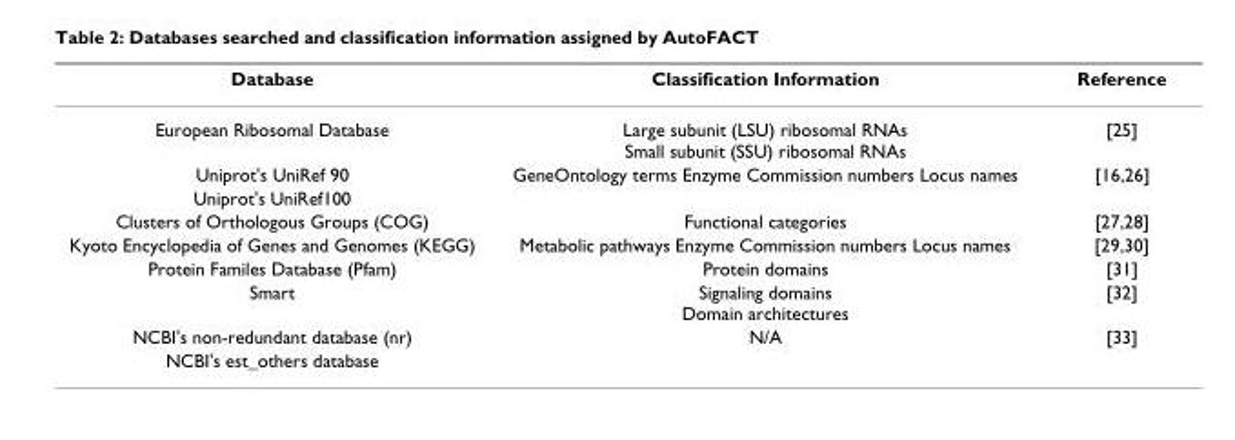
<table><thead><tr><td>Database</td><td>Classification Information</td><td>Reference</td></tr></thead><tbody><tr><td>European Ribosomal Database</td><td>Large subunit (LSU) ribosomal RNAs Small subunit (SSU) ribosomal RNAs</td><td>[25]</td></tr><tr><td>Uniprot&#x27;s UniRef 90</td><td>GeneOntology terms Enzyme Commission numbers Locus names</td><td>[16,26]</td></tr><tr><td colspan="3">Uniprot&#x27;s UniRef100</td></tr><tr><td>Clusters of Orthologous Groups (COG)</td><td>Functional categories</td><td>[27,28]</td></tr><tr><td>Kyoto Encyclopedia of Genes and Genomes (KEGG)</td><td>Metabolic pathways Enzyme Commission numbers Locus names</td><td>[29,30]</td></tr><tr><td>Protein Familes Database (Pfam)</td><td>Protein domains</td><td>[31]</td></tr><tr><td>Smart</td><td>Signaling domains Domain architectures</td><td>[32]</td></tr><tr><td>NCBI&#x27;s non-redundant database (nr)</td><td>N/A</td><td>[33]</td></tr><tr><td>NCBI&#x27;s est_others database</td><td></td><td></td></tr></tbody></table>